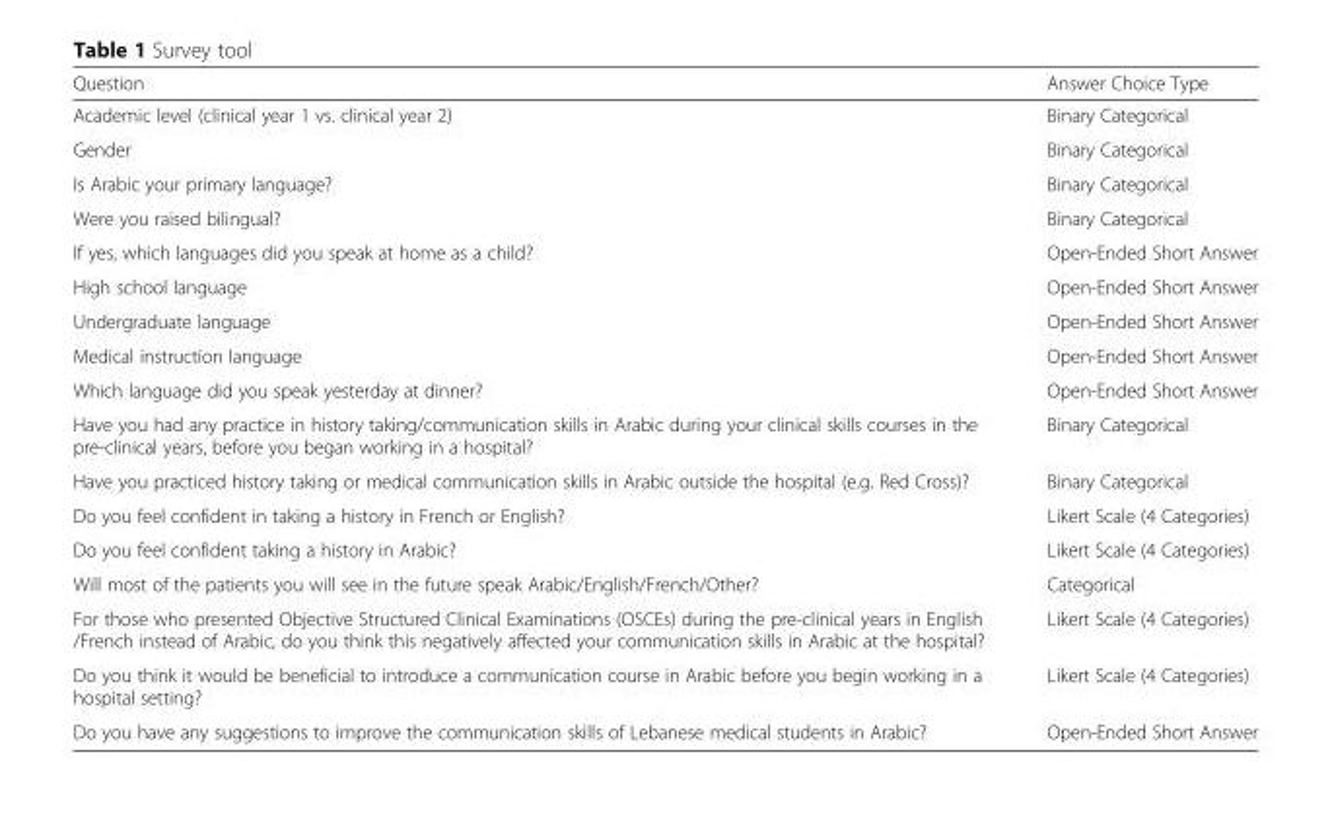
<table><thead><tr><td>Question</td><td>Answer Choice Type</td></tr></thead><tbody><tr><td>Academic level (clinical year 1 vs. clinical year 2)</td><td>Binary Categorical</td></tr><tr><td>Gender</td><td>Binary Categorical</td></tr><tr><td>Is Arabic your primary language?</td><td>Binary Categorical</td></tr><tr><td>Were you raised bilingual?</td><td>Binary Categorical</td></tr><tr><td>If yes, which languages did you speak at home as a child?</td><td>Open-Ended Short Answer</td></tr><tr><td>High school language</td><td>Open-Ended Short Answer</td></tr><tr><td>Undergraduate language</td><td>Open-Ended Short Answer</td></tr><tr><td>Medical instruction language</td><td>Open-Ended Short Answer</td></tr><tr><td>Which language did you speak yesterday at dinner?</td><td>Open-Ended Short Answer</td></tr><tr><td>Have you had any practice in history taking/communication skills in Arabic during your clinical skills courses in the pre-clinical years, before you began working in a hospital?</td><td>Binary Categorical</td></tr><tr><td>Have you practiced history taking or medical communication skills in Arabic outside the hospital (e.g. Red Cross)?</td><td>Binary Categorical</td></tr><tr><td>Do you feel confident in taking a history in French or English?</td><td>Likert Scale (4 Categories)</td></tr><tr><td>Do you feel confident taking a history in Arabic?</td><td>Likert Scale (4 Categories)</td></tr><tr><td>Will most of the patients you will see in the future speak Arabic/English/French/Other?</td><td>Categorical</td></tr><tr><td>For those who presented Objective Structured Clinical Examinations (OSCEs) during the pre-clinical years in English /French instead of Arabic, do you think this negatively affected your communication skills in Arabic at the hospital?</td><td>Likert Scale (4 Categories)</td></tr><tr><td>Do you think it would be beneficial to introduce a communication course in Arabic before you begin working in a hospital setting?</td><td>Likert Scale (4 Categories)</td></tr><tr><td>Do you have any suggestions to improve the communication skills of Lebanese medical students in Arabic?</td><td>Open-Ended Short Answer</td></tr></tbody></table>